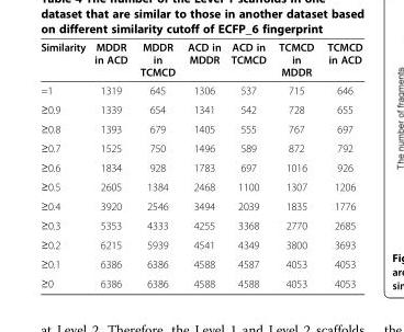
<table><thead><tr><td>Similarity</td><td>MDDR in ACD</td><td>MDDR in TCMCD</td><td>ACD in MDDR</td><td>ACD in TCMCD</td><td>TCMCD in MDDR</td><td>TCMCD in ACD</td></tr></thead><tbody><tr><td>=1</td><td>1319</td><td>645</td><td>1306</td><td>537</td><td>715</td><td>646</td></tr><tr><td>≥0.9</td><td>1339</td><td>654</td><td>1341</td><td>542</td><td>728</td><td>655</td></tr><tr><td>≥0.8</td><td>1393</td><td>679</td><td>1405</td><td>555</td><td>767</td><td>697</td></tr><tr><td>≥0.7</td><td>1525</td><td>750</td><td>1496</td><td>589</td><td>872</td><td>792</td></tr><tr><td>≥0.6</td><td>1834</td><td>928</td><td>1783</td><td>697</td><td>1016</td><td>926</td></tr><tr><td>≥0.5</td><td>2605</td><td>1384</td><td>2468</td><td>1100</td><td>1307</td><td>1206</td></tr><tr><td>≥0.4</td><td>3920</td><td>2546</td><td>3494</td><td>2039</td><td>1835</td><td>1776</td></tr><tr><td>≥0.3</td><td>5353</td><td>4333</td><td>4255</td><td>3368</td><td>2770</td><td>2685</td></tr><tr><td>≥0.2</td><td>6215</td><td>5939</td><td>4541</td><td>4349</td><td>3800</td><td>3693</td></tr><tr><td>≥0.1</td><td>6386</td><td>6386</td><td>4588</td><td>4587</td><td>4053</td><td>4053</td></tr><tr><td>≥0</td><td>6386</td><td>6386</td><td>4588</td><td>4588</td><td>4053</td><td>4053</td></tr></tbody></table>